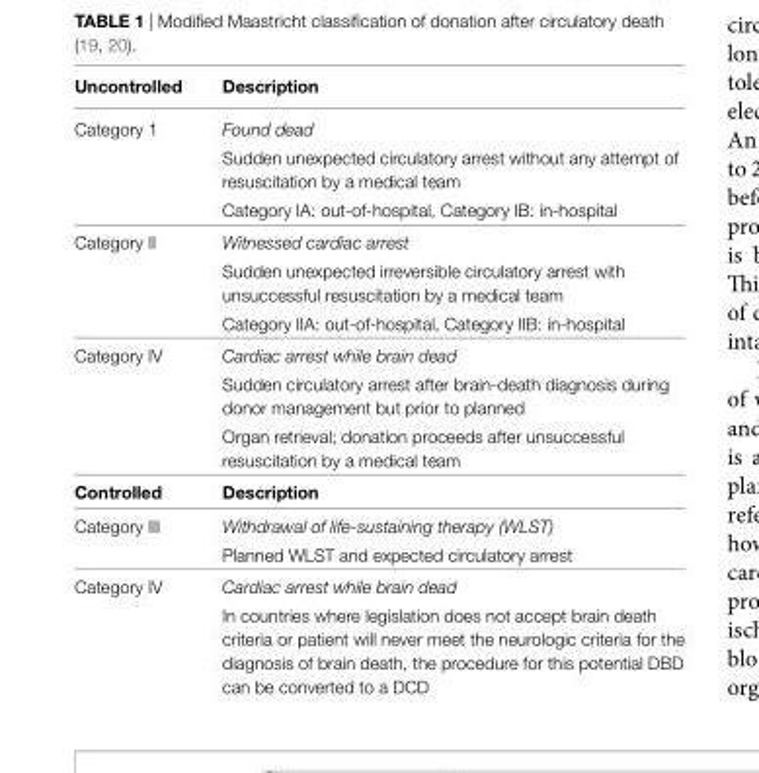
<table><thead><tr><td>Uncontrolled</td><td>Description</td></tr></thead><tbody><tr><td rowspan="3">Category 1</td><td>Found dead</td></tr><tr><td>Sudden unexpected circulatory arrest without any attempt of resuscitation by a medical team</td></tr><tr><td>Category IA: out-of-hospital, Category IB: in-hospital</td></tr><tr><td rowspan="3">Category II</td><td>Witnessed cardiac arrest</td></tr><tr><td>Sudden unexpected irreversible circulatory arrest with unsuccessful resuscitation by a medical team</td></tr><tr><td>Category IIA: out-of-hospital, Category IIB: in-hospital</td></tr><tr><td rowspan="3">Category IV</td><td>Cardiac arrest while brain dead</td></tr><tr><td>Sudden circulatory arrest after brain-death diagnosis during donor management but prior to planned</td></tr><tr><td>Organ retrieval; donation proceeds after unsuccessful resuscitation by a medical team</td></tr><tr><td>Controlled</td><td>Description</td></tr><tr><td rowspan="2">Category III</td><td>Withdrawal of life-sustaining therapy (WLST)</td></tr><tr><td>Planned WLST and expected circulatory arrest</td></tr><tr><td rowspan="2">Category IV</td><td>Cardiac arrest while brain dead</td></tr><tr><td>In countries where legislation does not accept brain death criteria or patient will never meet the neurologic criteria for the diagnosis of brain death, the procedure for this potential DBD can be converted to a DCD</td></tr></tbody></table>